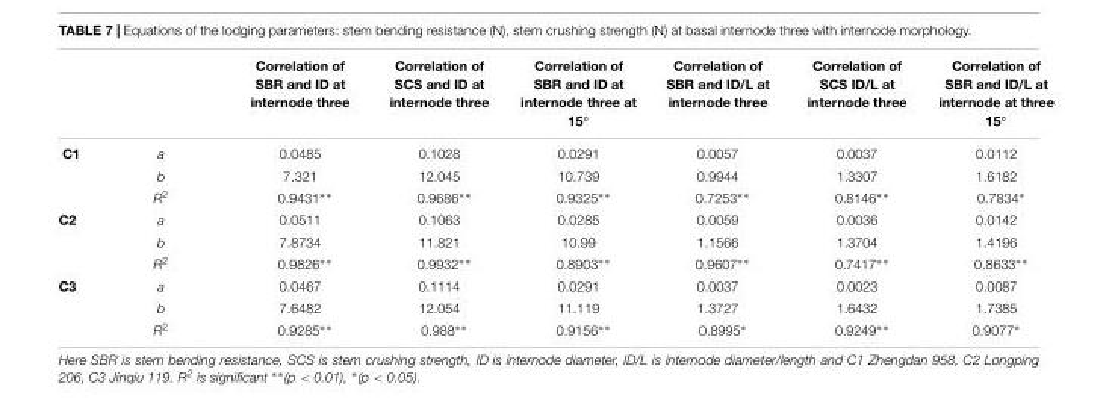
<table><thead><tr><td></td><td></td><td>Correlation of SBR and ID at internode three</td><td>Correlation of SCS and ID at internode three</td><td>Correlation of SBR and ID at internode three at 15◦</td><td>Correlation of SBR and ID/L at internode three</td><td>Correlation of SCS ID/L at internode three</td><td>Correlation of SBR and ID/L at internode at three 15◦</td></tr></thead><tbody><tr><td rowspan="3">C1</td><td>a</td><td>0.0485</td><td>0.1028</td><td>0.0291</td><td>0.0057</td><td>0.0037</td><td>0.0112</td></tr><tr><td>b</td><td>7.321</td><td>12.045</td><td>10.739</td><td>0.9944</td><td>1.3307</td><td>1.6182</td></tr><tr><td>R<sup>2</sup></td><td>0.9431∗∗</td><td>0.9686∗∗</td><td>0.9325∗∗</td><td>0.7253∗∗</td><td>0.8146∗∗</td><td>0.7834∗</td></tr><tr><td rowspan="3">C2</td><td>a</td><td>0.0511</td><td>0.1063</td><td>0.0285</td><td>0.0059</td><td>0.0036</td><td>0.0142</td></tr><tr><td>b</td><td>7.8734</td><td>11.821</td><td>10.99</td><td>1.1566</td><td>1.3704</td><td>1.4196</td></tr><tr><td>R<sup>2</sup></td><td>0.9826∗∗</td><td>0.9932∗∗</td><td>0.8903∗∗</td><td>0.9607∗∗</td><td>0.7417∗∗</td><td>0.8633∗∗</td></tr><tr><td rowspan="3">C3</td><td>a</td><td>0.0467</td><td>0.1114</td><td>0.0291</td><td>0.0037</td><td>0.0023</td><td>0.0087</td></tr><tr><td>b</td><td>7.6482</td><td>12.054</td><td>11.119</td><td>1.3727</td><td>1.6432</td><td>1.7385</td></tr><tr><td>R<sup>2</sup></td><td>0.9285∗∗</td><td>0.988∗∗</td><td>0.9156∗∗</td><td>0.8995∗</td><td>0.9249∗∗</td><td>0.9077∗</td></tr></tbody></table>